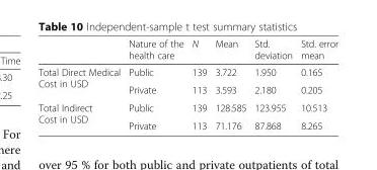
<table><thead><tr><td></td><td>Nature of the health care</td><td>N</td><td>Mean</td><td>Std. deviation</td><td>Std. error mean</td></tr></thead><tbody><tr><td rowspan="2">Total Direct Medical Cost in USD</td><td>Public</td><td>139</td><td>3.722</td><td>1.950</td><td>0.165</td></tr><tr><td>Private</td><td>113</td><td>3.593</td><td>2.180</td><td>0.205</td></tr><tr><td rowspan="2">Total Indirect Cost in USD</td><td>Public</td><td>139</td><td>128.585</td><td>123.955</td><td>10.513</td></tr><tr><td>Private</td><td>113</td><td>71.176</td><td>87.868</td><td>8.265</td></tr></tbody></table>